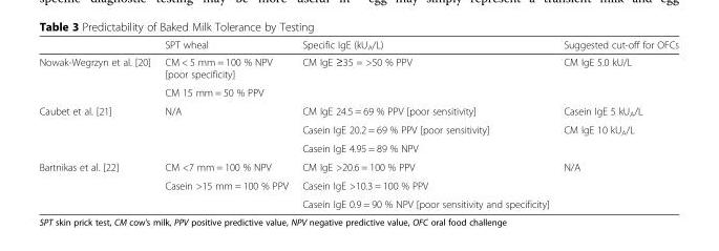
<table><thead><tr><td></td><td>SPT wheal</td><td>Specific IgE (kU<sub>A</sub>/L)</td><td>Suggested cut-off for OFCs</td></tr></thead><tbody><tr><td rowspan="2">Nowak-Wegrzyn et al. [20]</td><td>CM &lt; 5 mm = 100 % NPV [poor specificity]</td><td rowspan="2">CM IgE ≥35 = &gt;50 % PPV</td><td rowspan="2">CM IgE 5.0 kU/L</td></tr><tr><td>CM 15 mm = 50 % PPV</td></tr><tr><td rowspan="3">Caubet et al. [21]</td><td rowspan="3">N/A</td><td>CM IgE 24.5 = 69 % PPV [poor sensitivity]</td><td>Casein IgE 5 kU<sub>A</sub>/L</td></tr><tr><td>Casein IgE 20.2 = 69 % PPV [poor sensitivity]</td><td rowspan="2">CM IgE 10 kU<sub>A</sub>/L</td></tr><tr><td>Casein IgE 4.95 = 89 % NPV</td></tr><tr><td rowspan="3">Bartnikas et al. [22]</td><td>CM &lt;7 mm = 100 % NPV</td><td>CM IgE &gt;20.6 = 100 % PPV</td><td rowspan="3">N/A</td></tr><tr><td rowspan="2">Casein &gt;15 mm = 100 % PPV</td><td>Casein IgE &gt;10.3 = 100 % PPV</td></tr><tr><td>Casein IgE 0.9 = 90 % NPV [poor sensitivity and specificity]</td></tr></tbody></table>